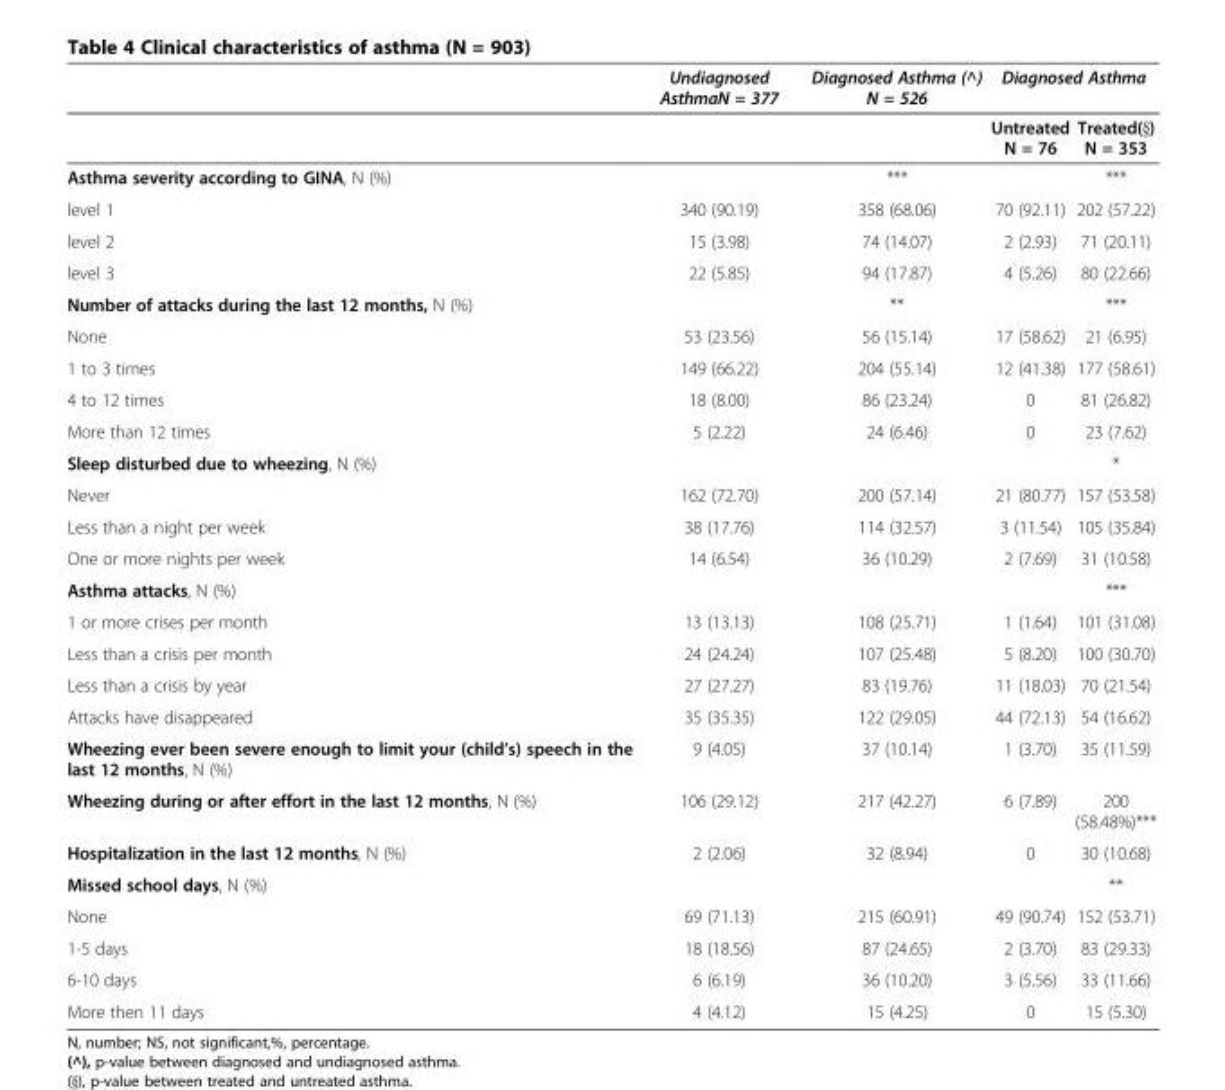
<table><thead><tr><td rowspan="2"></td><td rowspan="2">Undiagnosed AsthmaN = 377</td><td rowspan="2">Diagnosed Asthma (^) N = 526</td><td colspan="2">Diagnosed Asthma</td></tr><tr><td>Untreated N = 76</td><td>Treated(§) N = 353</td></tr></thead><tbody><tr><td>Asthma severity according to GINA, N (%)</td><td></td><td>***</td><td></td><td>***</td></tr><tr><td>level 1</td><td>340 (90.19)</td><td>358 (68.06)</td><td>70 (92.11)</td><td>202 (57.22)</td></tr><tr><td>level 2</td><td>15 (3.98)</td><td>74 (14.07)</td><td>2 (2.93)</td><td>71 (20.11)</td></tr><tr><td>level 3</td><td>22 (5.85)</td><td>94 (17.87)</td><td>4 (5.26)</td><td>80 (22.66)</td></tr><tr><td>Number of attacks during the last 12 months, N (%)</td><td></td><td>**</td><td></td><td>***</td></tr><tr><td>None</td><td>53 (23.56)</td><td>56 (15.14)</td><td>17 (58.62)</td><td>21 (6.95)</td></tr><tr><td>1 to 3 times</td><td>149 (66.22)</td><td>204 (55.14)</td><td>12 (41.38)</td><td>177 (58.61)</td></tr><tr><td>4 to 12 times</td><td>18 (8.00)</td><td>86 (23.24)</td><td>0</td><td>81 (26.82)</td></tr><tr><td>More than 12 times</td><td>5 (2.22)</td><td>24 (6.46)</td><td>0</td><td>23 (7.62)</td></tr><tr><td>Sleep disturbed due to wheezing, N (%)</td><td></td><td></td><td></td><td>*</td></tr><tr><td>Never</td><td>162 (72.70)</td><td>200 (57.14)</td><td>21 (80.77)</td><td>157 (53.58)</td></tr><tr><td>Less than a night per week</td><td>38 (17.76)</td><td>114 (32.57)</td><td>3 (11.54)</td><td>105 (35.84)</td></tr><tr><td>One or more nights per week</td><td>14 (6.54)</td><td>36 (10.29)</td><td>2 (7.69)</td><td>31 (10.58)</td></tr><tr><td>Asthma attacks, N (%)</td><td></td><td></td><td></td><td>***</td></tr><tr><td>1 or more crises per month</td><td>13 (13.13)</td><td>108 (25.71)</td><td>1 (1.64)</td><td>101 (31.08)</td></tr><tr><td>Less than a crisis per month</td><td>24 (24.24)</td><td>107 (25.48)</td><td>5 (8.20)</td><td>100 (30.70)</td></tr><tr><td>Less than a crisis by year</td><td>27 (27.27)</td><td>83 (19.76)</td><td>11 (18.03)</td><td>70 (21.54)</td></tr><tr><td>Attacks have disappeared</td><td>35 (35.35)</td><td>122 (29.05)</td><td>44 (72.13)</td><td>54 (16.62)</td></tr><tr><td>Wheezing ever been severe enough to limit your (child’s) speech in the last 12 months, N (%)</td><td>9 (4.05)</td><td>37 (10.14)</td><td>1 (3.70)</td><td>35 (11.59)</td></tr><tr><td>Wheezing during or after effort in the last 12 months, N (%)</td><td>106 (29.12)</td><td>217 (42.27)</td><td>6 (7.89)</td><td>200 (58.48%)***</td></tr><tr><td>Hospitalization in the last 12 months, N (%)</td><td>2 (2.06)</td><td>32 (8.94)</td><td>0</td><td>30 (10.68)</td></tr><tr><td>Missed school days, N (%)</td><td></td><td></td><td></td><td>**</td></tr><tr><td>None</td><td>69 (71.13)</td><td>215 (60.91)</td><td>49 (90.74)</td><td>152 (53.71)</td></tr><tr><td>1-5 days</td><td>18 (18.56)</td><td>87 (24.65)</td><td>2 (3.70)</td><td>83 (29.33)</td></tr><tr><td>6-10 days</td><td>6 (6.19)</td><td>36 (10.20)</td><td>3 (5.56)</td><td>33 (11.66)</td></tr><tr><td>More then 11 days</td><td>4 (4.12)</td><td>15 (4.25)</td><td>0</td><td>15 (5.30)</td></tr></tbody></table>